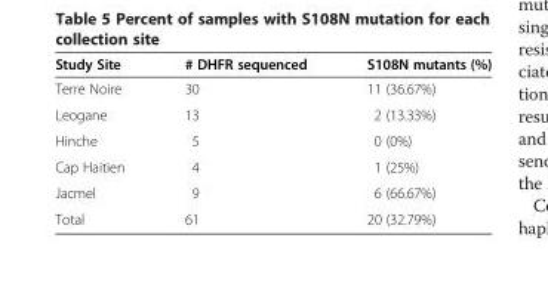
<table><thead><tr><td>Study Site</td><td># DHFR sequenced</td><td>S108N mutants (%)</td></tr></thead><tbody><tr><td>Terre Noire</td><td>30</td><td>11 (36.67%)</td></tr><tr><td>Leogane</td><td>13</td><td>2 (13.33%)</td></tr><tr><td>Hinche</td><td>5</td><td>0 (0%)</td></tr><tr><td>Cap Haitien</td><td>4</td><td>1 (25%)</td></tr><tr><td>Jacmel</td><td>9</td><td>6 (66.67%)</td></tr><tr><td>Total</td><td>61</td><td>20 (32.79%)</td></tr></tbody></table>